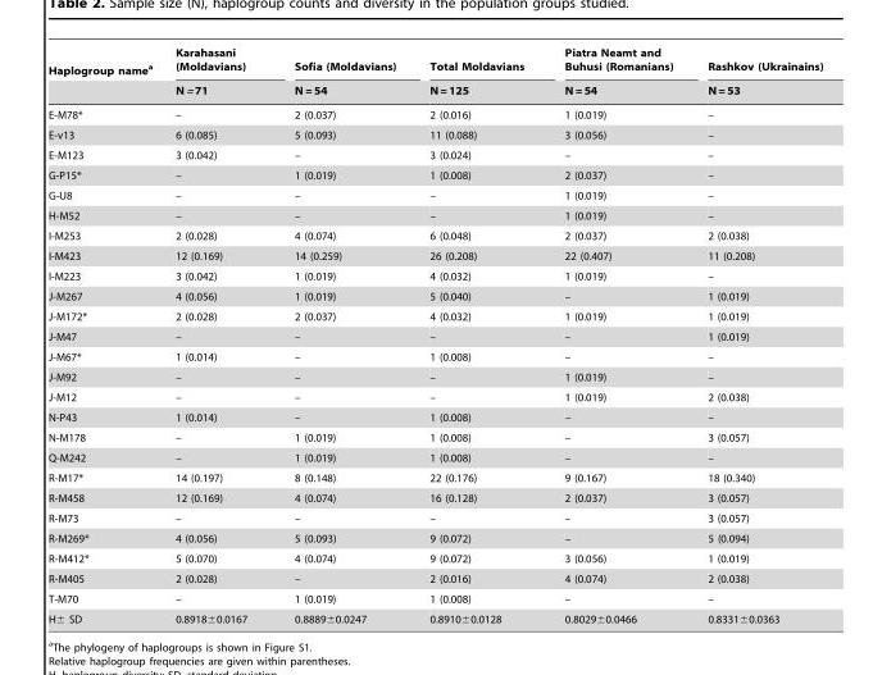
<table><thead><tr><td rowspan="2">Haplogroup name<sup>a</sup></td><td rowspan="2">Karahasani (Moldavians) N = 71</td><td rowspan="2">Sofia (Moldavians) N = 54</td><td rowspan="2">Total Moldavians N = 125</td><td rowspan="2">Piatra Neamt and Buhusi (Romanians) N = 54</td><td rowspan="2">Rashkov (Ukrainains) N = 53</td></tr><tr></tr></thead><tbody><tr><td>E-M78*</td><td>–</td><td>2 (0.037)</td><td>2 (0.016)</td><td>1 (0.019)</td><td>–</td></tr><tr><td>E-v13</td><td>6 (0.085)</td><td>5 (0.093)</td><td>11 (0.088)</td><td>3 (0.056)</td><td>–</td></tr><tr><td>E-M123</td><td>3 (0.042)</td><td>–</td><td>3 (0.024)</td><td>–</td><td>–</td></tr><tr><td>G-P15*</td><td>–</td><td>1 (0.019)</td><td>1 (0.008)</td><td>2 (0.037)</td><td>–</td></tr><tr><td>G-U8</td><td>–</td><td>–</td><td>–</td><td>1 (0.019)</td><td>–</td></tr><tr><td>H-M52</td><td>–</td><td>–</td><td>–</td><td>1 (0.019)</td><td>–</td></tr><tr><td>I-M253</td><td>2 (0.028)</td><td>4 (0.074)</td><td>6 (0.048)</td><td>2 (0.037)</td><td>2 (0.038)</td></tr><tr><td>I-M423</td><td>12 (0.169)</td><td>14 (0.259)</td><td>26 (0.208)</td><td>22 (0.407)</td><td>11 (0.208)</td></tr><tr><td>I-M223</td><td>3 (0.042)</td><td>1 (0.019)</td><td>4 (0.032)</td><td>1 (0.019)</td><td>–</td></tr><tr><td>J-M267</td><td>4 (0.056)</td><td>1 (0.019)</td><td>5 (0.040)</td><td>–</td><td>1 (0.019)</td></tr><tr><td>J-M172*</td><td>2 (0.028)</td><td>2 (0.037)</td><td>4 (0.032)</td><td>1 (0.019)</td><td>1 (0.019)</td></tr><tr><td>J-M47</td><td>–</td><td>–</td><td>–</td><td>–</td><td>1 (0.019)</td></tr><tr><td>J-M67*</td><td>1 (0.014)</td><td>–</td><td>1 (0.008)</td><td>–</td><td>–</td></tr><tr><td>J-M92</td><td>–</td><td>–</td><td>–</td><td>1 (0.019)</td><td>–</td></tr><tr><td>J-M12</td><td>–</td><td>–</td><td>–</td><td>1 (0.019)</td><td>2 (0.038)</td></tr><tr><td>N-P43</td><td>1 (0.014)</td><td>–</td><td>1 (0.008)</td><td>–</td><td>–</td></tr><tr><td>N-M178</td><td>–</td><td>1 (0.019)</td><td>1 (0.008)</td><td>–</td><td>3 (0.057)</td></tr><tr><td>Q-M242</td><td>–</td><td>1 (0.019)</td><td>1 (0.008)</td><td>–</td><td>–</td></tr><tr><td>R-M17*</td><td>14 (0.197)</td><td>8 (0.148)</td><td>22 (0.176)</td><td>9 (0.167)</td><td>18 (0.340)</td></tr><tr><td>R-M458</td><td>12 (0.169)</td><td>4 (0.074)</td><td>16 (0.128)</td><td>2 (0.037)</td><td>3 (0.057)</td></tr><tr><td>R-M73</td><td>–</td><td>–</td><td>–</td><td>–</td><td>3 (0.057)</td></tr><tr><td>R-M269*</td><td>4 (0.056)</td><td>5 (0.093)</td><td>9 (0.072)</td><td>–</td><td>5 (0.094)</td></tr><tr><td>R-M412*</td><td>5 (0.070)</td><td>4 (0.074)</td><td>9 (0.072)</td><td>3 (0.056)</td><td>1 (0.019)</td></tr><tr><td>R-M405</td><td>2 (0.028)</td><td>–</td><td>2 (0.016)</td><td>4 (0.074)</td><td>2 (0.038)</td></tr><tr><td>T-M70</td><td>–</td><td>1 (0.019)</td><td>1 (0.008)</td><td>–</td><td>–</td></tr><tr><td>H± SD</td><td>0.8918±0.0167</td><td>0.8889±0.0247</td><td>0.8910±0.0128</td><td>0.8029±0.0466</td><td>0.8331±0.0363</td></tr></tbody></table>